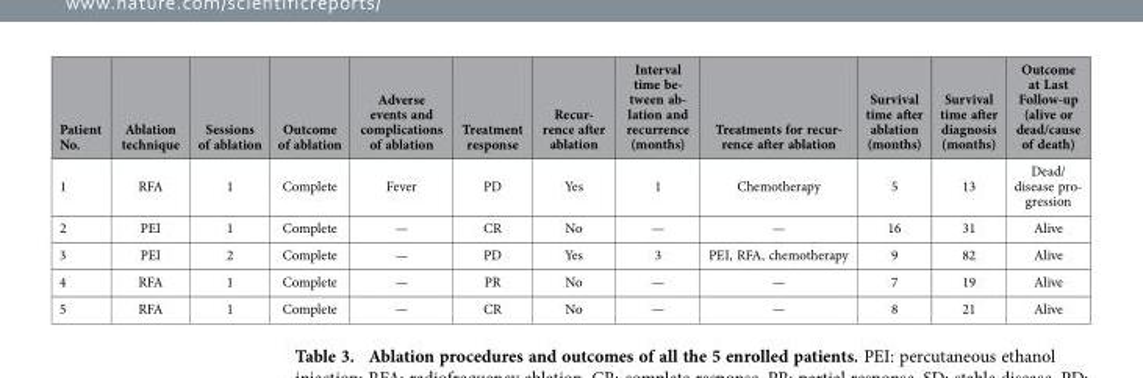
<table><thead><tr><td>Patient No.</td><td>Ablation technique</td><td>Sessions of ablation</td><td>Outcome of ablation</td><td>Adverse events and complications of ablation</td><td>Treatment response</td><td>Recur- rence after ablation</td><td>Interval time be- tween ab- lation and recurrence (months)</td><td>Treatments for recur- rence after ablation</td><td>Survival time after ablation (months)</td><td>Survival time after diagnosis (months)</td><td>Outcome at Last Follow-up (alive or dead/cause of death)</td></tr></thead><tbody><tr><td>1</td><td>RFA</td><td>1</td><td>Complete</td><td>Fever</td><td>PD</td><td>Yes</td><td>1</td><td>Chemotherapy</td><td>5</td><td>13</td><td>Dead/ disease pro- gression</td></tr><tr><td>2</td><td>PEI</td><td>1</td><td>Complete</td><td>—</td><td>CR</td><td>No</td><td>—</td><td>—</td><td>16</td><td>31</td><td>Alive</td></tr><tr><td>3</td><td>PEI</td><td>2</td><td>Complete</td><td>—</td><td>PD</td><td>Yes</td><td>3</td><td>PEI, RFA, chemotherapy</td><td>9</td><td>82</td><td>Alive</td></tr><tr><td>4</td><td>RFA</td><td>1</td><td>Complete</td><td>—</td><td>PR</td><td>No</td><td>—</td><td>—</td><td>7</td><td>19</td><td>Alive</td></tr><tr><td>5</td><td>RFA</td><td>1</td><td>Complete</td><td>—</td><td>CR</td><td>No</td><td>—</td><td>—</td><td>8</td><td>21</td><td>Alive</td></tr></tbody></table>